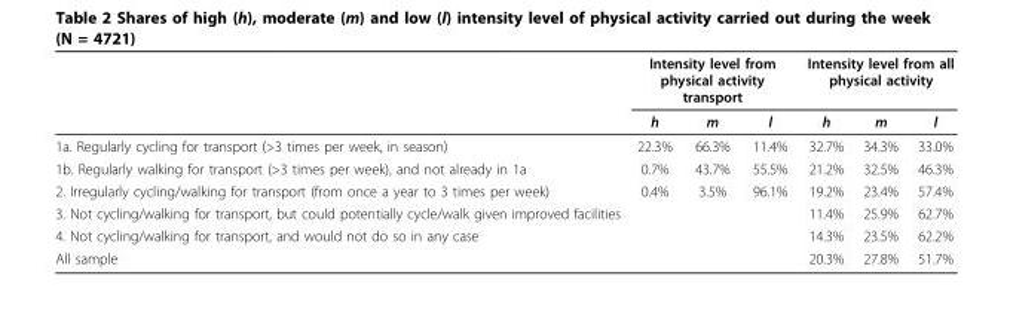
<table><thead><tr><td rowspan="2"></td><td colspan="3">Intensity level from physical activity transport</td><td colspan="3">Intensity level from all physical activity</td></tr><tr><td>h</td><td>m</td><td>l</td><td>h</td><td>m</td><td>l</td></tr></thead><tbody><tr><td>1a. Regularly cycling for transport (&gt;3 times per week, in season)</td><td>22.3%</td><td>66.3%</td><td>11.4%</td><td>32.7%</td><td>34.3%</td><td>33.0%</td></tr><tr><td>1b. Regularly walking for transport (&gt;3 times per week), and not already in 1a</td><td>0.7%</td><td>43.7%</td><td>55.5%</td><td>21.2%</td><td>32.5%</td><td>46.3%</td></tr><tr><td>2. Irregularly cycling/walking for transport (from once a year to 3 times per week)</td><td>0.4%</td><td>3.5%</td><td>96.1%</td><td>19.2%</td><td>23.4%</td><td>57.4%</td></tr><tr><td>3. Not cycling/walking for transport, but could potentially cycle/walk given improved facilities</td><td></td><td></td><td></td><td>11.4%</td><td>25.9%</td><td>62.7%</td></tr><tr><td>4. Not cycling/walking for transport, and would not do so in any case</td><td></td><td></td><td></td><td>14.3%</td><td>23.5%</td><td>62.2%</td></tr><tr><td>All sample</td><td></td><td></td><td></td><td>20.3%</td><td>27.8%</td><td>51.7%</td></tr></tbody></table>